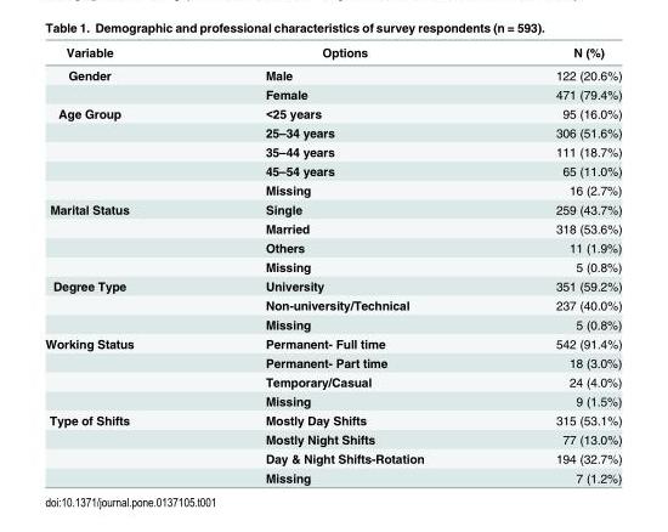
<table><thead><tr><td>Variable</td><td>Options</td><td>N (%)</td></tr></thead><tbody><tr><td rowspan="2">Gender</td><td>Male</td><td>122 (20.6%)</td></tr><tr><td>Female</td><td>471 (79.4%)</td></tr><tr><td rowspan="5">Age Group</td><td>&lt;25 years</td><td>95 (16.0%)</td></tr><tr><td>25–34 years</td><td>306 (51.6%)</td></tr><tr><td>35–44 years</td><td>111 (18.7%)</td></tr><tr><td>45–54 years</td><td>65 (11.0%)</td></tr><tr><td>Missing</td><td>16 (2.7%)</td></tr><tr><td rowspan="4">Marital Status</td><td>Single</td><td>259 (43.7%)</td></tr><tr><td>Married</td><td>318 (53.6%)</td></tr><tr><td>Others</td><td>11 (1.9%)</td></tr><tr><td>Missing</td><td>5 (0.8%)</td></tr><tr><td rowspan="3">Degree Type</td><td>University</td><td>351 (59.2%)</td></tr><tr><td>Non-university/Technical</td><td>237 (40.0%)</td></tr><tr><td>Missing</td><td>5 (0.8%)</td></tr><tr><td rowspan="4">Working Status</td><td>Permanent- Full time</td><td>542 (91.4%)</td></tr><tr><td>Permanent- Part time</td><td>18 (3.0%)</td></tr><tr><td>Temporary/Casual</td><td>24 (4.0%)</td></tr><tr><td>Missing</td><td>9 (1.5%)</td></tr><tr><td rowspan="4">Type of Shifts</td><td>Mostly Day Shifts</td><td>315 (53.1%)</td></tr><tr><td>Mostly Night Shifts</td><td>77 (13.0%)</td></tr><tr><td>Day &amp; Night Shifts-Rotation</td><td>194 (32.7%)</td></tr><tr><td>Missing</td><td>7 (1.2%)</td></tr></tbody></table>